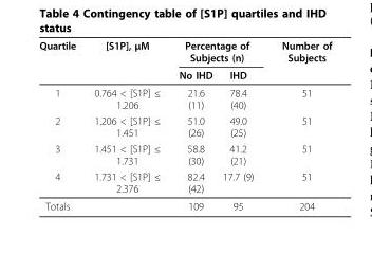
<table><thead><tr><td rowspan="2">Quartile</td><td rowspan="2">[S1P], μM</td><td colspan="2">Percentage of Subjects (n)</td><td rowspan="2">Number of Subjects</td></tr><tr><td>No IHD</td><td>IHD</td></tr></thead><tbody><tr><td>1</td><td>0.764 &lt; [S1P] ≤ 1.206</td><td>21.6 (11)</td><td>78.4 (40)</td><td>51</td></tr><tr><td>2</td><td>1.206 &lt; [S1P] ≤ 1.451</td><td>51.0 (26)</td><td>49.0 (25)</td><td>51</td></tr><tr><td>3</td><td>1.451 &lt; [S1P] ≤ 1.731</td><td>58.8 (30)</td><td>41.2 (21)</td><td>51</td></tr><tr><td>4</td><td>1.731 &lt; [S1P] ≤ 2.376</td><td>82.4 (42)</td><td>17.7 (9)</td><td>51</td></tr><tr><td>Totals</td><td></td><td>109</td><td>95</td><td>204</td></tr></tbody></table>